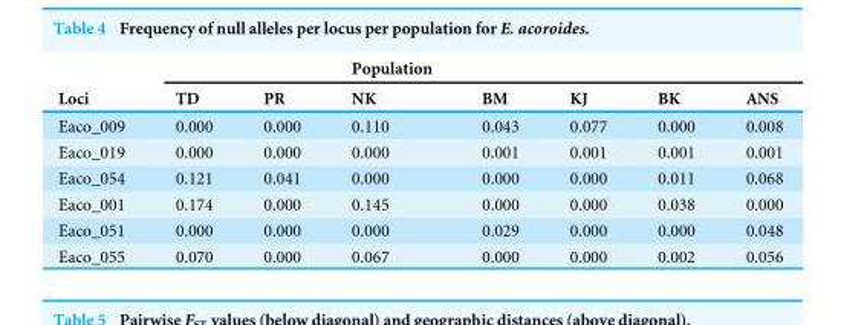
<table><thead><tr><td rowspan="2">Loci</td><td rowspan="2">TD</td><td rowspan="2">PR</td><td rowspan="2">Population NK</td><td rowspan="2">BM</td><td rowspan="2">KJ</td><td rowspan="2">BK</td><td rowspan="2">ANS</td></tr><tr></tr></thead><tbody><tr><td>Eaco_009</td><td>0.000</td><td>0.000</td><td>0.110</td><td>0.043</td><td>0.077</td><td>0.000</td><td>0.008</td></tr><tr><td>Eaco_019</td><td>0.000</td><td>0.000</td><td>0.000</td><td>0.001</td><td>0.001</td><td>0.001</td><td>0.001</td></tr><tr><td>Eaco_054</td><td>0.121</td><td>0.041</td><td>0.000</td><td>0.000</td><td>0.000</td><td>0.011</td><td>0.068</td></tr><tr><td>Eaco_001</td><td>0.174</td><td>0.000</td><td>0.145</td><td>0.000</td><td>0.000</td><td>0.038</td><td>0.000</td></tr><tr><td>Eaco_051</td><td>0.000</td><td>0.000</td><td>0.000</td><td>0.029</td><td>0.000</td><td>0.000</td><td>0.048</td></tr><tr><td>Eaco_055</td><td>0.070</td><td>0.000</td><td>0.067</td><td>0.000</td><td>0.000</td><td>0.002</td><td>0.056</td></tr></tbody></table>